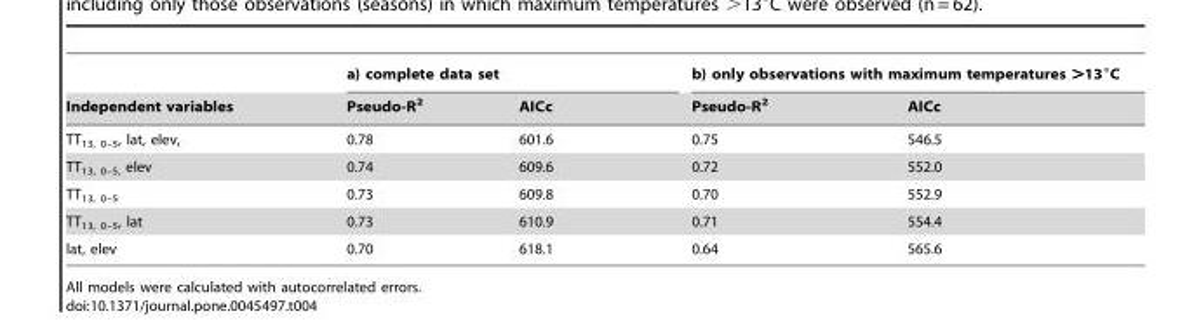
<table><thead><tr><td rowspan="2">Independent variables</td><td colspan="2">a) complete data set</td><td colspan="2">b) only observations with maximum temperatures &gt;13°C</td></tr><tr><td>Pseudo-R<sup>2</sup></td><td>AICc</td><td>Pseudo-R<sup>2</sup></td><td>AICc</td></tr></thead><tbody><tr><td>TT<sub>13, 0–5</sub>, lat, elev,</td><td>0.78</td><td>601.6</td><td>0.75</td><td>546.5</td></tr><tr><td>TT<sub>13, 0–5,</sub> elev</td><td>0.74</td><td>609.6</td><td>0.72</td><td>552.0</td></tr><tr><td>TT<sub>13, 0–5</sub></td><td>0.73</td><td>609.8</td><td>0.70</td><td>552.9</td></tr><tr><td>TT<sub>13, 0–5</sub>, lat</td><td>0.73</td><td>610.9</td><td>0.71</td><td>554.4</td></tr><tr><td>lat, elev</td><td>0.70</td><td>618.1</td><td>0.64</td><td>565.6</td></tr></tbody></table>